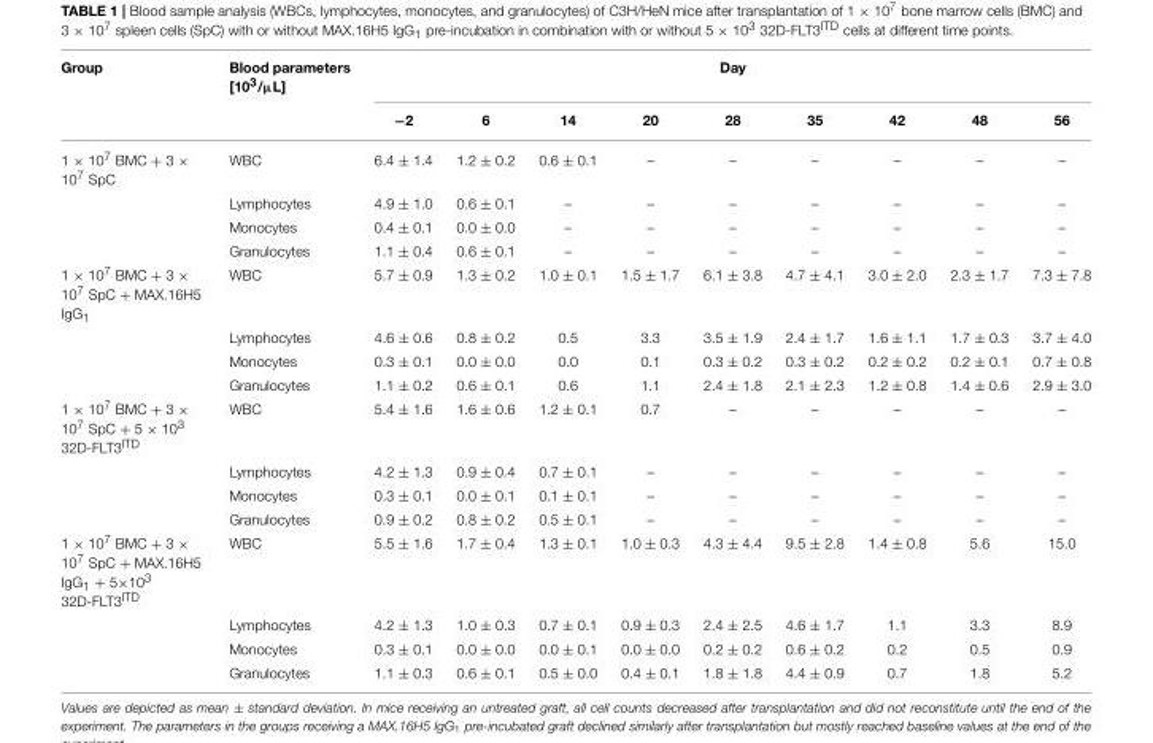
<table><thead><tr><td rowspan="2">Group</td><td rowspan="2">Blood parameters [10<sup>3</sup>/µL]</td><td colspan="9">Day</td></tr><tr><td>−2</td><td>6</td><td>14</td><td>20</td><td>28</td><td>35</td><td>42</td><td>48</td><td>56</td></tr></thead><tbody><tr><td rowspan="4">1 × 10<sup>7</sup> BMC + 3 × 10<sup>7</sup> SpC</td><td>WBC</td><td>6.4 ± 1.4</td><td>1.2 ± 0.2</td><td>0.6 ± 0.1</td><td>–</td><td>–</td><td>–</td><td>–</td><td>–</td><td>–</td></tr><tr><td>Lymphocytes</td><td>4.9 ± 1.0</td><td>0.6 ± 0.1</td><td>–</td><td>–</td><td>–</td><td>–</td><td>–</td><td>–</td><td>–</td></tr><tr><td>Monocytes</td><td>0.4 ± 0.1</td><td>0.0 ± 0.0</td><td>–</td><td>–</td><td>–</td><td>–</td><td>–</td><td>–</td><td>–</td></tr><tr><td>Granulocytes</td><td>1.1 ± 0.4</td><td>0.6 ± 0.1</td><td>–</td><td>–</td><td>–</td><td>–</td><td>–</td><td>–</td><td>–</td></tr><tr><td rowspan="4">1 × 10<sup>7</sup> BMC + 3 × 10<sup>7</sup> SpC + MAX.16H5 IgG<sub>1</sub></td><td>WBC</td><td>5.7 ± 0.9</td><td>1.3 ± 0.2</td><td>1.0 ± 0.1</td><td>1.5 ± 1.7</td><td>6.1 ± 3.8</td><td>4.7 ± 4.1</td><td>3.0 ± 2.0</td><td>2.3 ± 1.7</td><td>7.3 ± 7.8</td></tr><tr><td>Lymphocytes</td><td>4.6 ± 0.6</td><td>0.8 ± 0.2</td><td>0.5</td><td>3.3</td><td>3.5 ± 1.9</td><td>2.4 ± 1.7</td><td>1.6 ± 1.1</td><td>1.7 ± 0.3</td><td>3.7 ± 4.0</td></tr><tr><td>Monocytes</td><td>0.3 ± 0.1</td><td>0.0 ± 0.0</td><td>0.0</td><td>0.1</td><td>0.3 ± 0.2</td><td>0.3 ± 0.2</td><td>0.2 ± 0.2</td><td>0.2 ± 0.1</td><td>0.7 ± 0.8</td></tr><tr><td>Granulocytes</td><td>1.1 ± 0.2</td><td>0.6 ± 0.1</td><td>0.6</td><td>1.1</td><td>2.4 ± 1.8</td><td>2.1 ± 2.3</td><td>1.2 ± 0.8</td><td>1.4 ± 0.6</td><td>2.9 ± 3.0</td></tr><tr><td rowspan="4">1 × 10<sup>7</sup> BMC + 3 × 10<sup>7</sup> SpC + 5 × 10<sup>3</sup> 32D-FLT3<sup>ITD</sup></td><td>WBC</td><td>5.4 ± 1.6</td><td>1.6 ± 0.6</td><td>1.2 ± 0.1</td><td>0.7</td><td>–</td><td>–</td><td>–</td><td>–</td><td>–</td></tr><tr><td>Lymphocytes</td><td>4.2 ± 1.3</td><td>0.9 ± 0.4</td><td>0.7 ± 0.1</td><td>–</td><td>–</td><td>–</td><td>–</td><td>–</td><td>–</td></tr><tr><td>Monocytes</td><td>0.3 ± 0.1</td><td>0.0 ± 0.1</td><td>0.1 ± 0.1</td><td>–</td><td>–</td><td>–</td><td>–</td><td>–</td><td>–</td></tr><tr><td>Granulocytes</td><td>0.9 ± 0.2</td><td>0.8 ± 0.2</td><td>0.5 ± 0.1</td><td>–</td><td>–</td><td>–</td><td>–</td><td>–</td><td>–</td></tr><tr><td rowspan="4">1 × 10<sup>7</sup> BMC + 3 × 10<sup>7</sup> SpC + MAX.16H5 IgG<sub>1</sub> + 5×10<sup>3</sup> 32D-FLT3<sup>ITD</sup></td><td>WBC</td><td>5.5 ± 1.6</td><td>1.7 ± 0.4</td><td>1.3 ± 0.1</td><td>1.0 ± 0.3</td><td>4.3 ± 4.4</td><td>9.5 ± 2.8</td><td>1.4 ± 0.8</td><td>5.6</td><td>15.0</td></tr><tr><td>Lymphocytes</td><td>4.2 ± 1.3</td><td>1.0 ± 0.3</td><td>0.7 ± 0.1</td><td>0.9 ± 0.3</td><td>2.4 ± 2.5</td><td>4.6 ± 1.7</td><td>1.1</td><td>3.3</td><td>8.9</td></tr><tr><td>Monocytes</td><td>0.3 ± 0.1</td><td>0.0 ± 0.0</td><td>0.0 ± 0.1</td><td>0.0 ± 0.0</td><td>0.2 ± 0.2</td><td>0.6 ± 0.2</td><td>0.2</td><td>0.5</td><td>0.9</td></tr><tr><td>Granulocytes</td><td>1.1 ± 0.3</td><td>0.6 ± 0.1</td><td>0.5 ± 0.0</td><td>0.4 ± 0.1</td><td>1.8 ± 1.8</td><td>4.4 ± 0.9</td><td>0.7</td><td>1.8</td><td>5.2</td></tr></tbody></table>